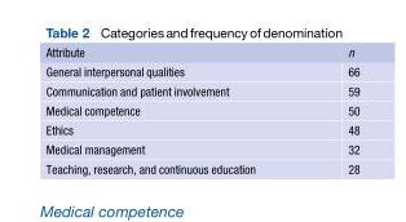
<table><thead><tr><td>Attribute</td><td>n</td></tr></thead><tbody><tr><td>General interpersonal qualities</td><td>66</td></tr><tr><td>Communication and patient involvement</td><td>59</td></tr><tr><td>Medical competence</td><td>50</td></tr><tr><td>Ethics</td><td>48</td></tr><tr><td>Medical management</td><td>32</td></tr><tr><td>Teaching, research, and continuous education</td><td>28</td></tr></tbody></table>